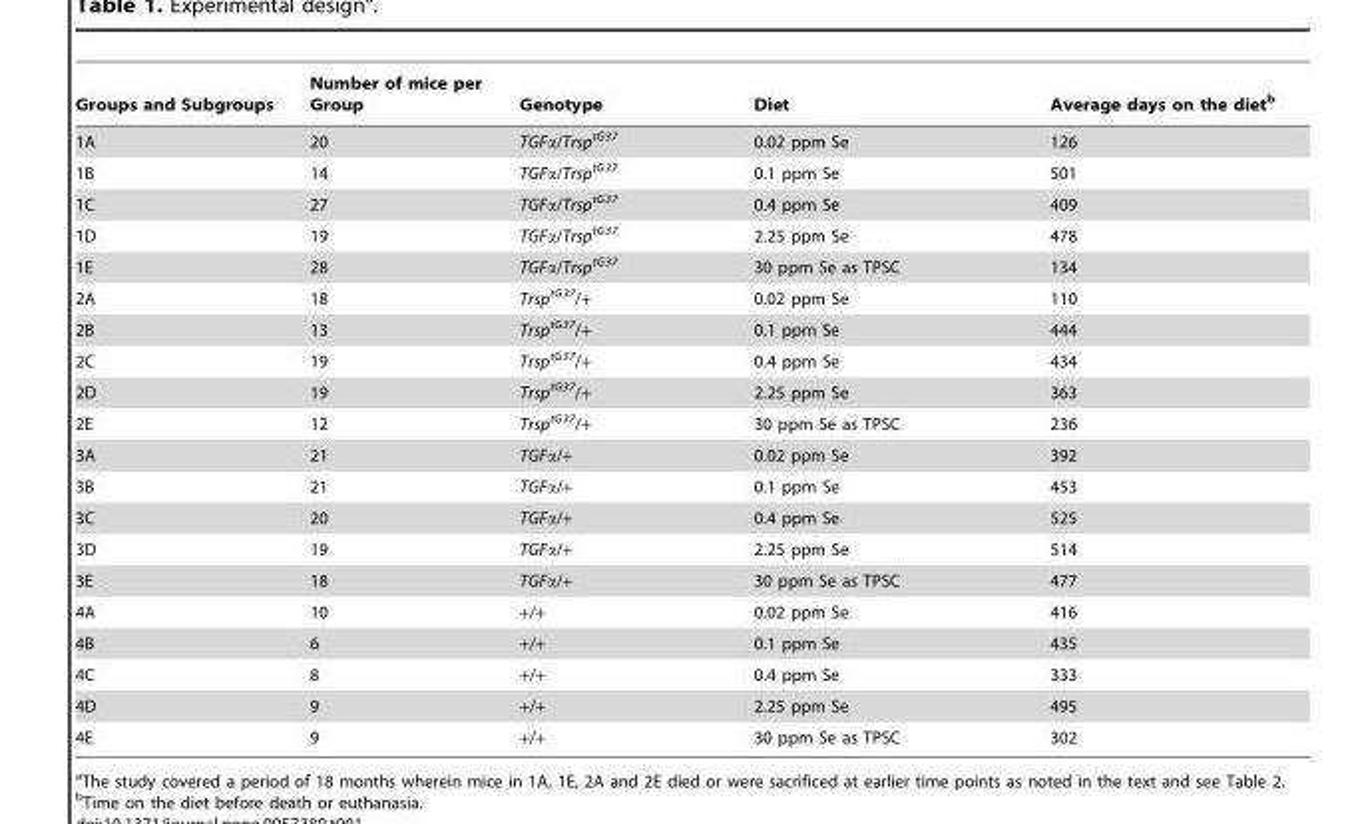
<table><thead><tr><td>Groups and Subgroups</td><td>Number of mice per Group</td><td>Genotype</td><td>Diet</td><td>Average days on the diet<sup>b</sup></td></tr></thead><tbody><tr><td>1A</td><td>20</td><td>TGFα/Trsp<sup>tG37</sup></td><td>0.02 ppm Se</td><td>126</td></tr><tr><td>1B</td><td>14</td><td>TGFα/Trsp<sup>tG37</sup></td><td>0.1 ppm Se</td><td>501</td></tr><tr><td>1C</td><td>27</td><td>TGFα/Trsp<sup>tG37</sup></td><td>0.4 ppm Se</td><td>409</td></tr><tr><td>1D</td><td>19</td><td>TGFα/Trsp<sup>tG37</sup></td><td>2.25 ppm Se</td><td>478</td></tr><tr><td>1E</td><td>28</td><td>TGFα/Trsp<sup>tG37</sup></td><td>30 ppm Se as TPSC</td><td>134</td></tr><tr><td>2A</td><td>18</td><td>Trsp<sup>tG37</sup>/+</td><td>0.02 ppm Se</td><td>110</td></tr><tr><td>2B</td><td>13</td><td>Trsp<sup>tG37</sup>/+</td><td>0.1 ppm Se</td><td>444</td></tr><tr><td>2C</td><td>19</td><td>Trsp<sup>tG37</sup>/+</td><td>0.4 ppm Se</td><td>434</td></tr><tr><td>2D</td><td>19</td><td>Trsp<sup>tG37</sup>/+</td><td>2.25 ppm Se</td><td>363</td></tr><tr><td>2E</td><td>12</td><td>Trsp<sup>tG37</sup>/+</td><td>30 ppm Se as TPSC</td><td>236</td></tr><tr><td>3A</td><td>21</td><td>TGFα/+</td><td>0.02 ppm Se</td><td>392</td></tr><tr><td>3B</td><td>21</td><td>TGFα/+</td><td>0.1 ppm Se</td><td>453</td></tr><tr><td>3C</td><td>20</td><td>TGFα/+</td><td>0.4 ppm Se</td><td>525</td></tr><tr><td>3D</td><td>19</td><td>TGFα/+</td><td>2.25 ppm Se</td><td>514</td></tr><tr><td>3E</td><td>18</td><td>TGFα/+</td><td>30 ppm Se as TPSC</td><td>477</td></tr><tr><td>4A</td><td>10</td><td>+/+</td><td>0.02 ppm Se</td><td>416</td></tr><tr><td>4B</td><td>6</td><td>+/+</td><td>0.1 ppm Se</td><td>435</td></tr><tr><td>4C</td><td>8</td><td>+/+</td><td>0.4 ppm Se</td><td>333</td></tr><tr><td>4D</td><td>9</td><td>+/+</td><td>2.25 ppm Se</td><td>495</td></tr><tr><td>4E</td><td>9</td><td>+/+</td><td>30 ppm Se as TPSC</td><td>302</td></tr></tbody></table>